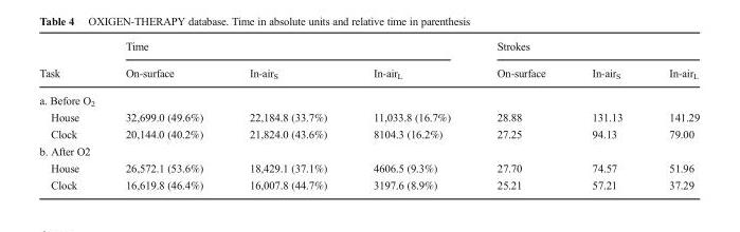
<table><thead><tr><td rowspan="2">Task</td><td colspan="3">Time</td><td colspan="3">Strokes</td></tr><tr><td>On-surface</td><td>In-air<sub>S</sub></td><td>In-air<sub>L</sub></td><td>On-surface</td><td>In-air<sub>S</sub></td><td>In-air<sub>L</sub></td></tr></thead><tbody><tr><td colspan="7">a. Before O<sub>2</sub></td></tr><tr><td>House</td><td>32,699.0 (49.6%)</td><td>22,184.8 (33.7%)</td><td>11,033.8 (16.7%)</td><td>28.88</td><td>131.13</td><td>141.29</td></tr><tr><td>Clock</td><td>20,144.0 (40.2%)</td><td>21,824.0 (43.6%)</td><td>8104.3 (16.2%)</td><td>27.25</td><td>94.13</td><td>79.00</td></tr><tr><td colspan="7">b. After O2</td></tr><tr><td>House</td><td>26,572.1 (53.6%)</td><td>18,429.1 (37.1%)</td><td>4606.5 (9.3%)</td><td>27.70</td><td>74.57</td><td>51.96</td></tr><tr><td>Clock</td><td>16,619.8 (46.4%)</td><td>16,007.8 (44.7%)</td><td>3197.6 (8.9%)</td><td>25.21</td><td>57.21</td><td>37.29</td></tr></tbody></table>